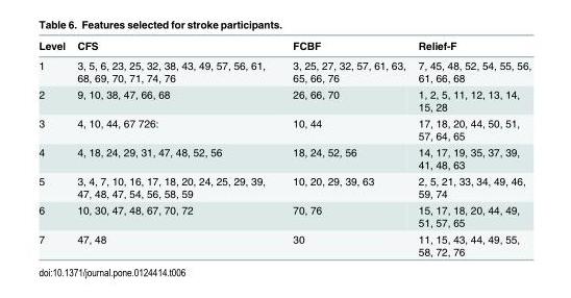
<table><thead><tr><td>Level</td><td>CFS</td><td>FCBF</td><td>Relief-F</td></tr></thead><tbody><tr><td>1</td><td>3, 5, 6, 23, 25, 32, 38, 43, 49, 57, 56, 61, 68, 69, 70, 71, 74, 76</td><td>3, 25, 27, 32, 57, 61, 63, 65, 66, 76</td><td>7, 45, 48, 52, 54, 55, 56, 61, 66, 68</td></tr><tr><td>2</td><td>9, 10, 38, 47, 66, 68</td><td>26, 66, 70</td><td>1, 2, 5, 11, 12, 13, 14, 15, 28</td></tr><tr><td>3</td><td>4, 10, 44, 67 726:</td><td>10, 44</td><td>17, 18, 20, 44, 50, 51, 57, 64, 65</td></tr><tr><td>4</td><td>4, 18, 24, 29, 31, 47, 48, 52, 56</td><td>18, 24, 52, 56</td><td>14, 17, 19, 35, 37, 39, 41, 48, 63</td></tr><tr><td>5</td><td>3, 4, 7, 10, 16, 17, 18, 20, 24, 25, 29, 39, 47, 48, 47, 54, 56, 58, 59</td><td>10, 20, 29, 39, 63</td><td>2, 5, 21, 33, 34, 49, 46, 59, 74</td></tr><tr><td>6</td><td>10, 30, 47, 48, 67, 70, 72</td><td>70, 76</td><td>15, 17, 18, 20, 44, 49, 51, 57, 65</td></tr><tr><td>7</td><td>47, 48</td><td>30</td><td>11, 15, 43, 44, 49, 55, 58, 72, 76</td></tr></tbody></table>